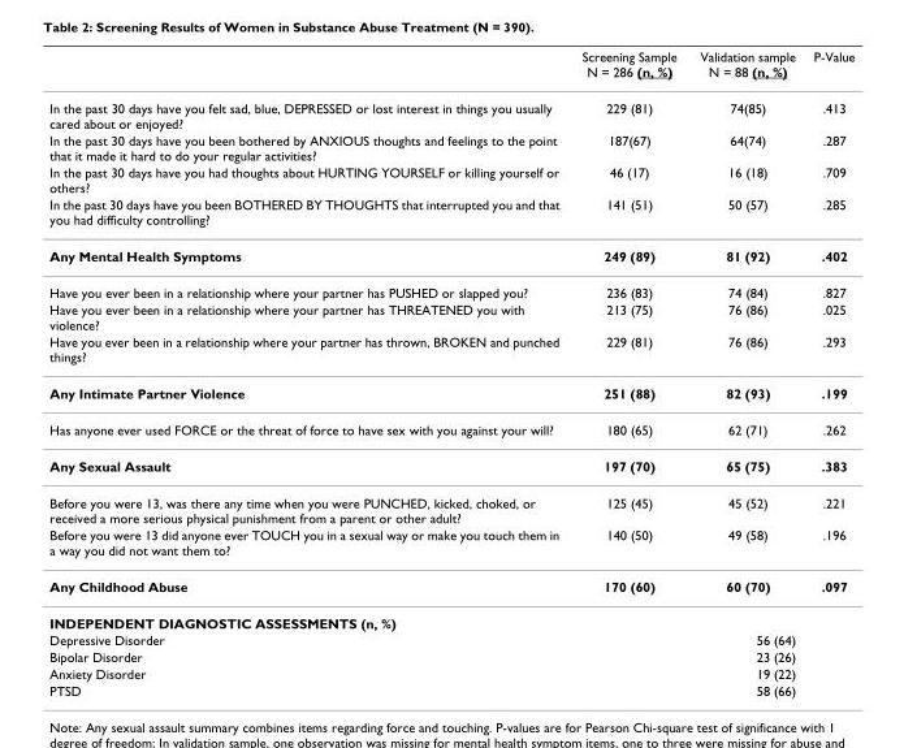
<table><thead><tr><td></td><td>Screening Sample N = 286 (n, %)</td><td>Validation sample N = 88 (n, %)</td><td>P-Value</td></tr></thead><tbody><tr><td>In the past 30 days have you felt sad, blue, DEPRESSED or lost interest in things you usually cared about or enjoyed?</td><td>229 (81)</td><td>74(85)</td><td>.413</td></tr><tr><td>In the past 30 days have you been bothered by ANXIOUS thoughts and feelings to the point that it made it hard to do your regular activities?</td><td>187(67)</td><td>64(74)</td><td>.287</td></tr><tr><td>In the past 30 days have you had thoughts about HURTING YOURSELF or killing yourself or others?</td><td>46 (17)</td><td>16 (18)</td><td>.709</td></tr><tr><td>In the past 30 days have you been BOTHERED BY THOUGHTS that interrupted you and that you had difficulty controlling?</td><td>141 (51)</td><td>50 (57)</td><td>.285</td></tr><tr><td>Any Mental Health Symptoms</td><td>249 (89)</td><td>81 (92)</td><td>.402</td></tr><tr><td>Have you ever been in a relationship where your partner has PUSHED or slapped you?</td><td>236 (83)</td><td>74 (84)</td><td>.827</td></tr><tr><td>Have you ever been in a relationship where your partner has THREATENED you with violence?</td><td>213 (75)</td><td>76 (86)</td><td>.025</td></tr><tr><td>Have you ever been in a relationship where your partner has thrown, BROKEN and punched things?</td><td>229 (81)</td><td>76 (86)</td><td>.293</td></tr><tr><td>Any Intimate Partner Violence</td><td>251 (88)</td><td>82 (93)</td><td>.199</td></tr><tr><td>Has anyone ever used FORCE or the threat of force to have sex with you against your will?</td><td>180 (65)</td><td>62 (71)</td><td>.262</td></tr><tr><td>Any Sexual Assault</td><td>197 (70)</td><td>65 (75)</td><td>.383</td></tr><tr><td>Before you were 13, was there any time when you were PUNCHED, kicked, choked, or received a more serious physical punishment from a parent or other adult?</td><td>125 (45)</td><td>45 (52)</td><td>.221</td></tr><tr><td>Before you were 13 did anyone ever TOUCH you in a sexual way or make you touch them in a way you did not want them to?</td><td>140 (50)</td><td>49 (58)</td><td>.196</td></tr><tr><td>Any Childhood Abuse</td><td>170 (60)</td><td>60 (70)</td><td>.097</td></tr><tr><td colspan="4">INDEPENDENT DIAGNOSTIC ASSESSMENTS (n, %)</td></tr><tr><td colspan="2">Depressive Disorder</td><td colspan="2">56 (64)</td></tr><tr><td colspan="2">Bipolar Disorder</td><td colspan="2">23 (26)</td></tr><tr><td colspan="2">Anxiety Disorder</td><td colspan="2">19 (22)</td></tr><tr><td colspan="2">PTSD</td><td colspan="2">58 (66)</td></tr></tbody></table>